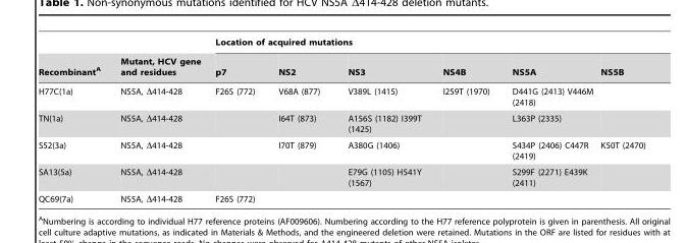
<table><thead><tr><td rowspan="2">Recombinant<sup>A</sup></td><td rowspan="2">Mutant, HCV gene and residues</td><td colspan="6">Location of acquired mutations</td></tr><tr><td>p7</td><td>NS2</td><td>NS3</td><td>NS4B</td><td>NS5A</td><td>NS5B</td></tr></thead><tbody><tr><td>H77C(1a)</td><td>NS5A, Δ414-428</td><td>F26S (772)</td><td>V68A (877)</td><td>V389L (1415)</td><td>I259T (1970)</td><td>D441G (2413) V446M (2418)</td><td></td></tr><tr><td>TN(1a)</td><td>NS5A, Δ414-428</td><td></td><td>I64T (873)</td><td>A156S (1182) I399T (1425)</td><td></td><td>L363P (2335)</td><td></td></tr><tr><td>S52(3a)</td><td>NS5A, Δ414-428</td><td></td><td>I70T (879)</td><td>A380G (1406)</td><td></td><td>S434P (2406) C447R (2419)</td><td>K50T (2470)</td></tr><tr><td>SA13(5a)</td><td>NS5A, Δ414-428</td><td></td><td></td><td>E79G (1105) H541Y (1567)</td><td></td><td>S299F (2271) E439K (2411)</td><td></td></tr><tr><td>QC69(7a)</td><td>NS5A, Δ414-428</td><td>F26S (772)</td><td></td><td></td><td></td><td></td><td></td></tr></tbody></table>